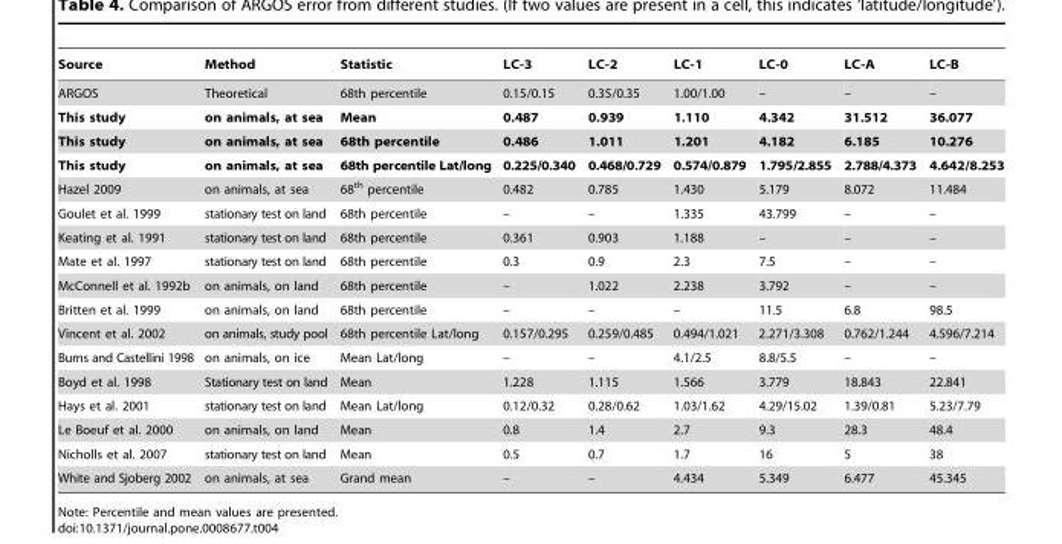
<table><thead><tr><td>Source</td><td>Method</td><td>Statistic</td><td>LC-3</td><td>LC-2</td><td>LC-1</td><td>LC-0</td><td>LC-A</td><td>LC-B</td></tr></thead><tbody><tr><td>ARGOS</td><td>Theoretical</td><td>68th percentile</td><td>0.15/0.15</td><td>0.35/0.35</td><td>1.00/1.00</td><td>–</td><td>–</td><td>–</td></tr><tr><td>This study</td><td>on animals, at sea</td><td>Mean</td><td>0.487</td><td>0.939</td><td>1.110</td><td>4.342</td><td>31.512</td><td>36.077</td></tr><tr><td>This study</td><td>on animals, at sea</td><td>68th percentile</td><td>0.486</td><td>1.011</td><td>1.201</td><td>4.182</td><td>6.185</td><td>10.276</td></tr><tr><td>This study</td><td>on animals, at sea</td><td>68th percentile Lat/long</td><td>0.225/0.340</td><td>0.468/0.729</td><td>0.574/0.879</td><td>1.795/2.855</td><td>2.788/4.373</td><td>4.642/8.253</td></tr><tr><td>Hazel 2009</td><td>on animals, at sea</td><td>68<sup>th</sup> percentile</td><td>0.482</td><td>0.785</td><td>1.430</td><td>5.179</td><td>8.072</td><td>11.484</td></tr><tr><td>Goulet et al. 1999</td><td>stationary test on land</td><td>68th percentile</td><td>–</td><td>–</td><td>1.335</td><td>43.799</td><td>–</td><td>–</td></tr><tr><td>Keating et al. 1991</td><td>stationary test on land</td><td>68th percentile</td><td>0.361</td><td>0.903</td><td>1.188</td><td>–</td><td>–</td><td>–</td></tr><tr><td>Mate et al. 1997</td><td>stationary test on land</td><td>68th percentile</td><td>0.3</td><td>0.9</td><td>2.3</td><td>7.5</td><td>–</td><td>–</td></tr><tr><td>McConnell et al. 1992b</td><td>on animals, on land</td><td>68th percentile</td><td>–</td><td>1.022</td><td>2.238</td><td>3.792</td><td>–</td><td>–</td></tr><tr><td>Britten et al. 1999</td><td>on animals, on land</td><td>68th percentile</td><td>–</td><td>–</td><td>–</td><td>11.5</td><td>6.8</td><td>98.5</td></tr><tr><td>Vincent et al. 2002</td><td>on animals, study pool</td><td>68th percentile Lat/long</td><td>0.157/0.295</td><td>0.259/0.485</td><td>0.494/1.021</td><td>2.271/3.308</td><td>0.762/1.244</td><td>4.596/7.214</td></tr><tr><td>Burns and Castellini 1998</td><td>on animals, on ice</td><td>Mean Lat/long</td><td>–</td><td>–</td><td>4.1/2.5</td><td>8.8/5.5</td><td>–</td><td>–</td></tr><tr><td>Boyd et al. 1998</td><td>Stationary test on land</td><td>Mean</td><td>1.228</td><td>1.115</td><td>1.566</td><td>3.779</td><td>18.843</td><td>22.841</td></tr><tr><td>Hays et al. 2001</td><td>stationary test on land</td><td>Mean Lat/long</td><td>0.12/0.32</td><td>0.28/0.62</td><td>1.03/1.62</td><td>4.29/15.02</td><td>1.39/0.81</td><td>5.23/7.79</td></tr><tr><td>Le Boeuf et al. 2000</td><td>on animals, on land</td><td>Mean</td><td>0.8</td><td>1.4</td><td>2.7</td><td>9.3</td><td>28.3</td><td>48.4</td></tr><tr><td>Nicholls et al. 2007</td><td>stationary test on land</td><td>Mean</td><td>0.5</td><td>0.7</td><td>1.7</td><td>16</td><td>5</td><td>38</td></tr><tr><td>White and Sjoberg 2002</td><td>on animals, at sea</td><td>Grand mean</td><td>–</td><td>–</td><td>4.434</td><td>5.349</td><td>6.477</td><td>45.345</td></tr></tbody></table>